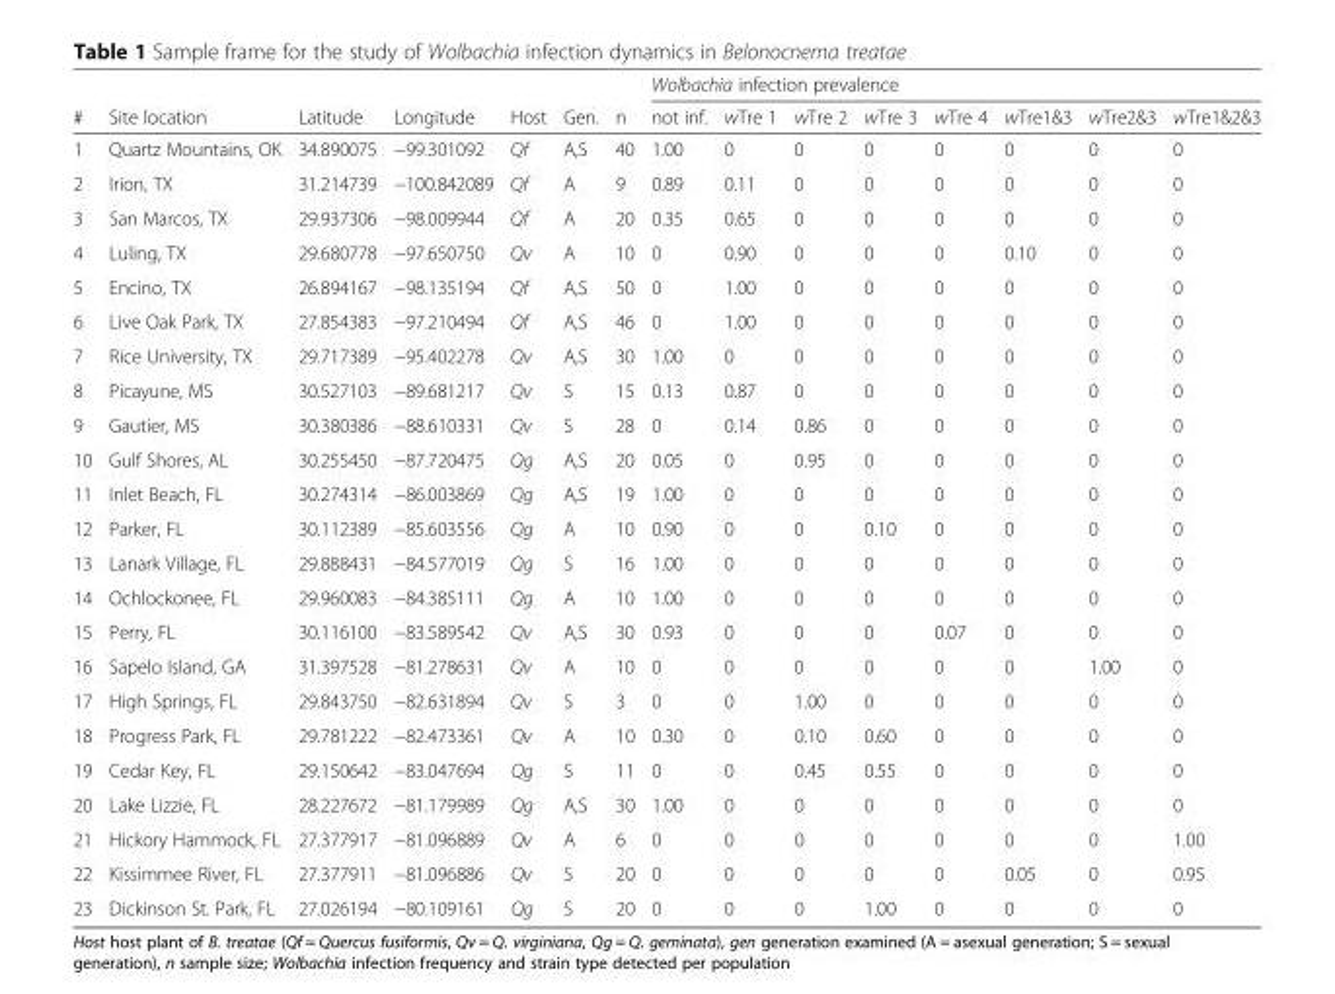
<table><thead><tr><td rowspan="2">#</td><td rowspan="2">Site location</td><td rowspan="2">Latitude</td><td rowspan="2">Longitude</td><td rowspan="2">Host</td><td rowspan="2">Gen.</td><td rowspan="2">n</td><td colspan="8">Wolbachia infection prevalence</td></tr><tr><td>not inf.</td><td>wTre 1</td><td>wTre 2</td><td>wTre 3</td><td>wTre 4</td><td>wTre1&amp;3</td><td>wTre2&amp;3</td><td>wTre1&amp;2&amp;3</td></tr></thead><tbody><tr><td>1</td><td>Quartz Mountains, OK</td><td>34.890075</td><td>−99.301092</td><td>Qf</td><td>A,S</td><td>40</td><td>1.00</td><td>0</td><td>0</td><td>0</td><td>0</td><td>0</td><td>0</td><td>0</td></tr><tr><td>2</td><td>Irion, TX</td><td>31.214739</td><td>−100.842089</td><td>Qf</td><td>A</td><td>9</td><td>0.89</td><td>0.11</td><td>0</td><td>0</td><td>0</td><td>0</td><td>0</td><td>0</td></tr><tr><td>3</td><td>San Marcos, TX</td><td>29.937306</td><td>−98.009944</td><td>Qf</td><td>A</td><td>20</td><td>0.35</td><td>0.65</td><td>0</td><td>0</td><td>0</td><td>0</td><td>0</td><td>0</td></tr><tr><td>4</td><td>Luling, TX</td><td>29.680778</td><td>−97.650750</td><td>Qv</td><td>A</td><td>10</td><td>0</td><td>0.90</td><td>0</td><td>0</td><td>0</td><td>0.10</td><td>0</td><td>0</td></tr><tr><td>5</td><td>Encino, TX</td><td>26.894167</td><td>−98.135194</td><td>Qf</td><td>A,S</td><td>50</td><td>0</td><td>1.00</td><td>0</td><td>0</td><td>0</td><td>0</td><td>0</td><td>0</td></tr><tr><td>6</td><td>Live Oak Park, TX</td><td>27.854383</td><td>−97.210494</td><td>Qf</td><td>A,S</td><td>46</td><td>0</td><td>1.00</td><td>0</td><td>0</td><td>0</td><td>0</td><td>0</td><td>0</td></tr><tr><td>7</td><td>Rice University, TX</td><td>29.717389</td><td>−95.402278</td><td>Qv</td><td>A,S</td><td>30</td><td>1.00</td><td>0</td><td>0</td><td>0</td><td>0</td><td>0</td><td>0</td><td>0</td></tr><tr><td>8</td><td>Picayune, MS</td><td>30.527103</td><td>−89.681217</td><td>Qv</td><td>S</td><td>15</td><td>0.13</td><td>0.87</td><td>0</td><td>0</td><td>0</td><td>0</td><td>0</td><td>0</td></tr><tr><td>9</td><td>Gautier, MS</td><td>30.380386</td><td>−88.610331</td><td>Qv</td><td>S</td><td>28</td><td>0</td><td>0.14</td><td>0.86</td><td>0</td><td>0</td><td>0</td><td>0</td><td>0</td></tr><tr><td>10</td><td>Gulf Shores, AL</td><td>30.255450</td><td>−87.720475</td><td>Qg</td><td>A,S</td><td>20</td><td>0.05</td><td>0</td><td>0.95</td><td>0</td><td>0</td><td>0</td><td>0</td><td>0</td></tr><tr><td>11</td><td>Inlet Beach, FL</td><td>30.274314</td><td>−86.003869</td><td>Qg</td><td>A,S</td><td>19</td><td>1.00</td><td>0</td><td>0</td><td>0</td><td>0</td><td>0</td><td>0</td><td>0</td></tr><tr><td>12</td><td>Parker, FL</td><td>30.112389</td><td>−85.603556</td><td>Qg</td><td>A</td><td>10</td><td>0.90</td><td>0</td><td>0</td><td>0.10</td><td>0</td><td>0</td><td>0</td><td>0</td></tr><tr><td>13</td><td>Lanark Village, FL</td><td>29.888431</td><td>−84.577019</td><td>Qg</td><td>S</td><td>16</td><td>1.00</td><td>0</td><td>0</td><td>0</td><td>0</td><td>0</td><td>0</td><td>0</td></tr><tr><td>14</td><td>Ochlockonee, FL</td><td>29.960083</td><td>−84.385111</td><td>Qg</td><td>A</td><td>10</td><td>1.00</td><td>0</td><td>0</td><td>0</td><td>0</td><td>0</td><td>0</td><td>0</td></tr><tr><td>15</td><td>Perry, FL</td><td>30.116100</td><td>−83.589542</td><td>Qv</td><td>A,S</td><td>30</td><td>0.93</td><td>0</td><td>0</td><td>0</td><td>0.07</td><td>0</td><td>0</td><td>0</td></tr><tr><td>16</td><td>Sapelo Island, GA</td><td>31.397528</td><td>−81.278631</td><td>Qv</td><td>A</td><td>10</td><td>0</td><td>0</td><td>0</td><td>0</td><td>0</td><td>0</td><td>1.00</td><td>0</td></tr><tr><td>17</td><td>High Springs, FL</td><td>29.843750</td><td>−82.631894</td><td>Qv</td><td>S</td><td>3</td><td>0</td><td>0</td><td>1.00</td><td>0</td><td>0</td><td>0</td><td>0</td><td>0</td></tr><tr><td>18</td><td>Progress Park, FL</td><td>29.781222</td><td>−82.473361</td><td>Qv</td><td>A</td><td>10</td><td>0.30</td><td>0</td><td>0.10</td><td>0.60</td><td>0</td><td>0</td><td>0</td><td>0</td></tr><tr><td>19</td><td>Cedar Key, FL</td><td>29.150642</td><td>−83.047694</td><td>Qg</td><td>S</td><td>11</td><td>0</td><td>0</td><td>0.45</td><td>0.55</td><td>0</td><td>0</td><td>0</td><td>0</td></tr><tr><td>20</td><td>Lake Lizzie, FL</td><td>28.227672</td><td>−81.179989</td><td>Qg</td><td>A,S</td><td>30</td><td>1.00</td><td>0</td><td>0</td><td>0</td><td>0</td><td>0</td><td>0</td><td>0</td></tr><tr><td>21</td><td>Hickory Hammock, FL</td><td>27.377917</td><td>−81.096889</td><td>Qv</td><td>A</td><td>6</td><td>0</td><td>0</td><td>0</td><td>0</td><td>0</td><td>0</td><td>0</td><td>1.00</td></tr><tr><td>22</td><td>Kissimmee River, FL</td><td>27.377911</td><td>−81.096886</td><td>Qv</td><td>S</td><td>20</td><td>0</td><td>0</td><td>0</td><td>0</td><td>0</td><td>0.05</td><td>0</td><td>0.95</td></tr><tr><td>23</td><td>Dickinson St. Park, FL</td><td>27.026194</td><td>−80.109161</td><td>Qg</td><td>S</td><td>20</td><td>0</td><td>0</td><td>0</td><td>1.00</td><td>0</td><td>0</td><td>0</td><td>0</td></tr></tbody></table>